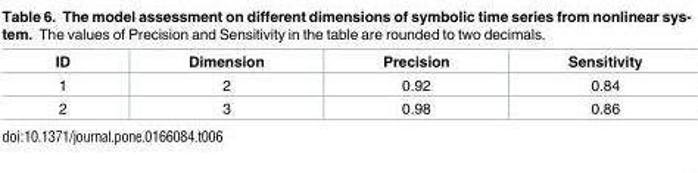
<table><thead><tr><td>ID</td><td>Dimension</td><td>Precision</td><td>Sensitivity</td></tr></thead><tbody><tr><td>1</td><td>2</td><td>0.92</td><td>0.84</td></tr><tr><td>2</td><td>3</td><td>0.98</td><td>0.86</td></tr></tbody></table>